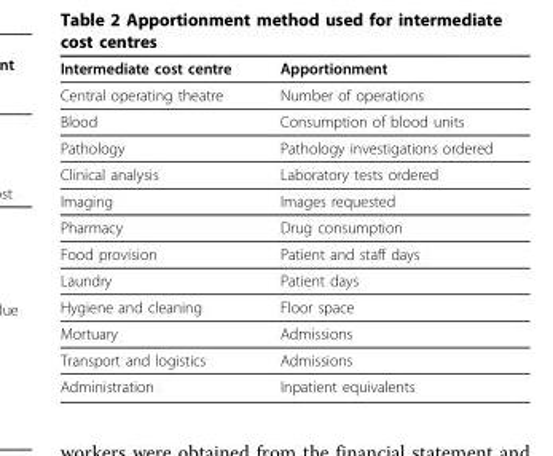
<table><thead><tr><td>Intermediate cost centre</td><td>Apportionment</td></tr></thead><tbody><tr><td>Central operating theatre</td><td>Number of operations</td></tr><tr><td>Blood</td><td>Consumption of blood units</td></tr><tr><td>Pathology</td><td>Pathology investigations ordered</td></tr><tr><td>Clinical analysis</td><td>Laboratory tests ordered</td></tr><tr><td>Imaging</td><td>Images requested</td></tr><tr><td>Pharmacy</td><td>Drug consumption</td></tr><tr><td>Food provision</td><td>Patient and staff days</td></tr><tr><td>Laundry</td><td>Patient days</td></tr><tr><td>Hygiene and cleaning</td><td>Floor space</td></tr><tr><td>Mortuary</td><td>Admissions</td></tr><tr><td>Transport and logistics</td><td>Admissions</td></tr><tr><td>Administration</td><td>Inpatient equivalents</td></tr></tbody></table>